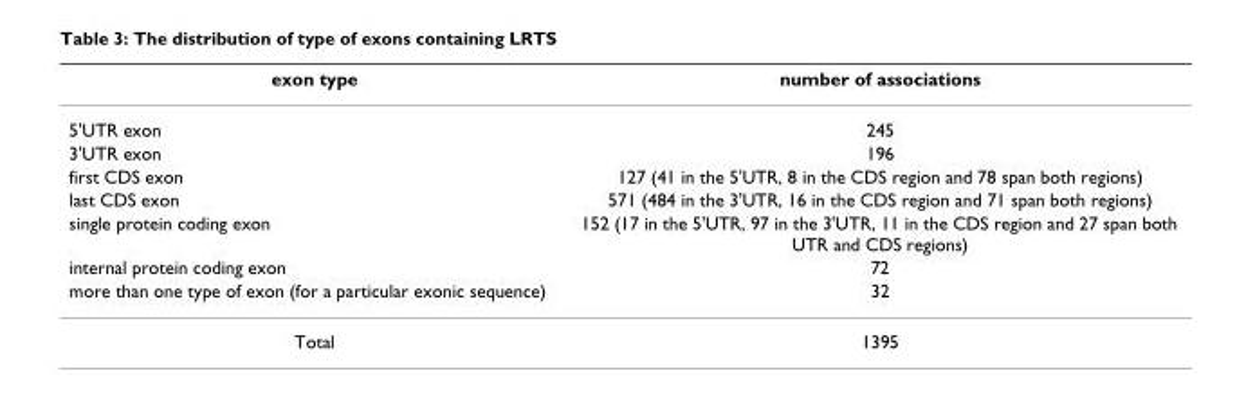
<table><thead><tr><td>exon type</td><td>number of associations</td></tr></thead><tbody><tr><td>5&#x27;UTR exon</td><td>245</td></tr><tr><td>3&#x27;UTR exon</td><td>196</td></tr><tr><td>first CDS exon</td><td>127 (41 in the 5&#x27;UTR, 8 in the CDS region and 78 span both regions)</td></tr><tr><td>last CDS exon</td><td>571 (484 in the 3&#x27;UTR, 16 in the CDS region and 71 span both regions)</td></tr><tr><td>single protein coding exon</td><td>152 (17 in the 5&#x27;UTR, 97 in the 3&#x27;UTR, 11 in the CDS region and 27 span both UTR and CDS regions)</td></tr><tr><td>internal protein coding exon</td><td>72</td></tr><tr><td>more than one type of exon (for a particular exonic sequence)</td><td>32</td></tr><tr><td>Total</td><td>1395</td></tr></tbody></table>